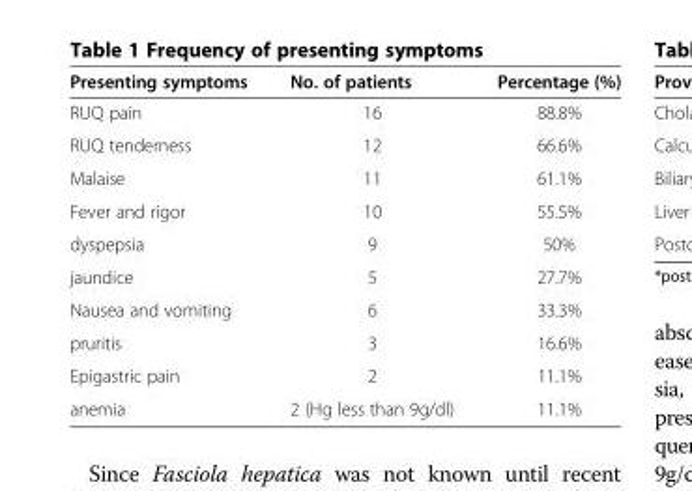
<table><thead><tr><td>Presenting symptoms</td><td>No. of patients</td><td>Percentage (%)</td></tr></thead><tbody><tr><td>RUQ pain</td><td>16</td><td>88.8%</td></tr><tr><td>RUQ tenderness</td><td>12</td><td>66.6%</td></tr><tr><td>Malaise</td><td>11</td><td>61.1%</td></tr><tr><td>Fever and rigor</td><td>10</td><td>55.5%</td></tr><tr><td>dyspepsia</td><td>9</td><td>50%</td></tr><tr><td>jaundice</td><td>5</td><td>27.7%</td></tr><tr><td>Nausea and vomiting</td><td>6</td><td>33.3%</td></tr><tr><td>pruritis</td><td>3</td><td>16.6%</td></tr><tr><td>Epigastric pain</td><td>2</td><td>11.1%</td></tr><tr><td>anemia</td><td>2 (Hg less than 9g/dl)</td><td>11.1%</td></tr></tbody></table>